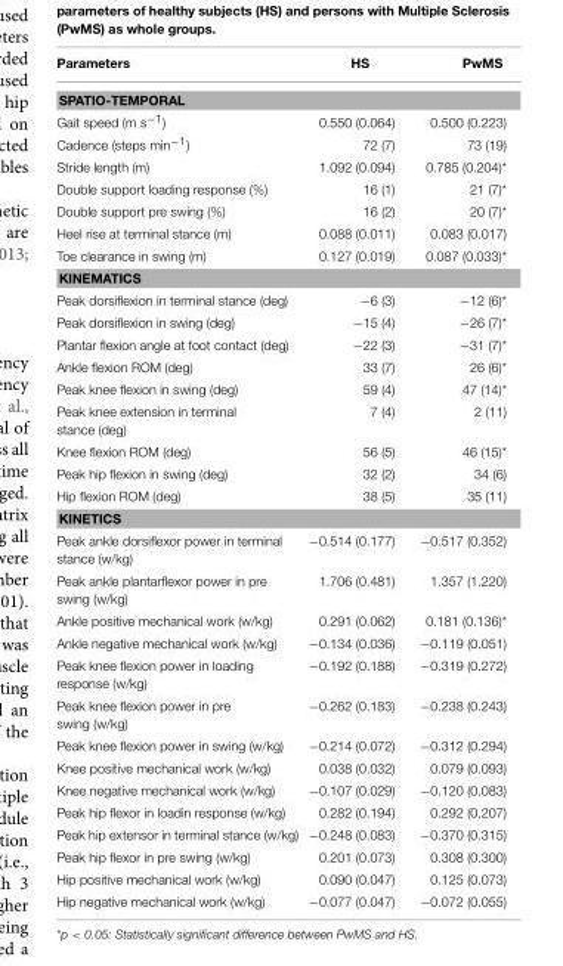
<table><thead><tr><td>Parameters</td><td>HS</td><td>PwMS</td></tr></thead><tbody><tr><td colspan="3">SPATIO-TEMPORAL</td></tr><tr><td>Gait speed (m s<sup>−1</sup>)</td><td>0.550 (0.064)</td><td>0.500 (0.223)</td></tr><tr><td>Cadence (steps min<sup>−1</sup>)</td><td>72 (7)</td><td>73 (19)</td></tr><tr><td>Stride length (m)</td><td>1.092 (0.094)</td><td>0.785 (0.204)*</td></tr><tr><td>Double support loading response (%)</td><td>16 (1)</td><td>21 (7)*</td></tr><tr><td>Double support pre swing (%)</td><td>16 (2)</td><td>20 (7)*</td></tr><tr><td>Heel rise at terminal stance (m)</td><td>0.088 (0.011)</td><td>0.083 (0.017)</td></tr><tr><td>Toe clearance in swing (m)</td><td>0.127 (0.019)</td><td>0.087 (0.033)*</td></tr><tr><td colspan="3">KINEMATICS</td></tr><tr><td>Peak dorsiflexion in terminal stance (deg)</td><td>−6 (3)</td><td>−12 (6)*</td></tr><tr><td>Peak dorsiflexion in swing (deg)</td><td>−15 (4)</td><td>−26 (7)*</td></tr><tr><td>Plantar flexion angle at foot contact (deg)</td><td>−22 (3)</td><td>−31 (7)*</td></tr><tr><td>Ankle flexion ROM (deg)</td><td>33 (7)</td><td>26 (6)*</td></tr><tr><td>Peak knee flexion in swing (deg)</td><td>59 (4)</td><td>47 (14)*</td></tr><tr><td>Peak knee extension in terminal stance (deg)</td><td>7 (4)</td><td>2 (11)</td></tr><tr><td>Knee flexion ROM (deg)</td><td>56 (5)</td><td>46 (15)*</td></tr><tr><td>Peak hip flexion in swing (deg)</td><td>32 (2)</td><td>34 (6)</td></tr><tr><td>Hip flexion ROM (deg)</td><td>38 (5)</td><td>35 (11)</td></tr><tr><td colspan="3">KINETICS</td></tr><tr><td>Peak ankle dorsiflexor power in terminal stance (w/kg)</td><td>−0.514 (0.177)</td><td>−0.517 (0.352)</td></tr><tr><td>Peak ankle plantarflexor power in pre swing (w/kg)</td><td>1.706 (0.481)</td><td>1.357 (1.220)</td></tr><tr><td>Ankle positive mechanical work (w/kg)</td><td>0.291 (0.062)</td><td>0.181 (0.136)*</td></tr><tr><td>Ankle negative mechanical work (w/kg)</td><td>−0.134 (0.036)</td><td>−0.119 (0.051)</td></tr><tr><td>Peak knee flexion power in loading response (w/kg)</td><td>−0.192 (0.188)</td><td>−0.319 (0.272)</td></tr><tr><td>Peak knee flexion power in pre swing (w/kg)</td><td>−0.262 (0.183)</td><td>−0.238 (0.243)</td></tr><tr><td>Peak knee flexion power in swing (w/kg)</td><td>−0.214 (0.072)</td><td>−0.312 (0.294)</td></tr><tr><td>Knee positive mechanical work (w/kg)</td><td>0.038 (0.032)</td><td>0.079 (0.093)</td></tr><tr><td>Knee negative mechanical work (w/kg)</td><td>−0.107 (0.029)</td><td>−0.120 (0.083)</td></tr><tr><td>Peak hip flexor in loadin response (w/kg)</td><td>0.282 (0.194)</td><td>0.292 (0.207)</td></tr><tr><td>Peak hip extensor in terminal stance (w/kg)</td><td>−0.248 (0.083)</td><td>−0.370 (0.315)</td></tr><tr><td>Peak hip flexor in pre swing (w/kg)</td><td>0.201 (0.073)</td><td>0.308 (0.300)</td></tr><tr><td>Hip positive mechanical work (w/kg)</td><td>0.090 (0.047)</td><td>0.125 (0.073)</td></tr><tr><td>Hip negative mechanical work (w/kg)</td><td>−0.077 (0.047)</td><td>−0.072 (0.055)</td></tr></tbody></table>